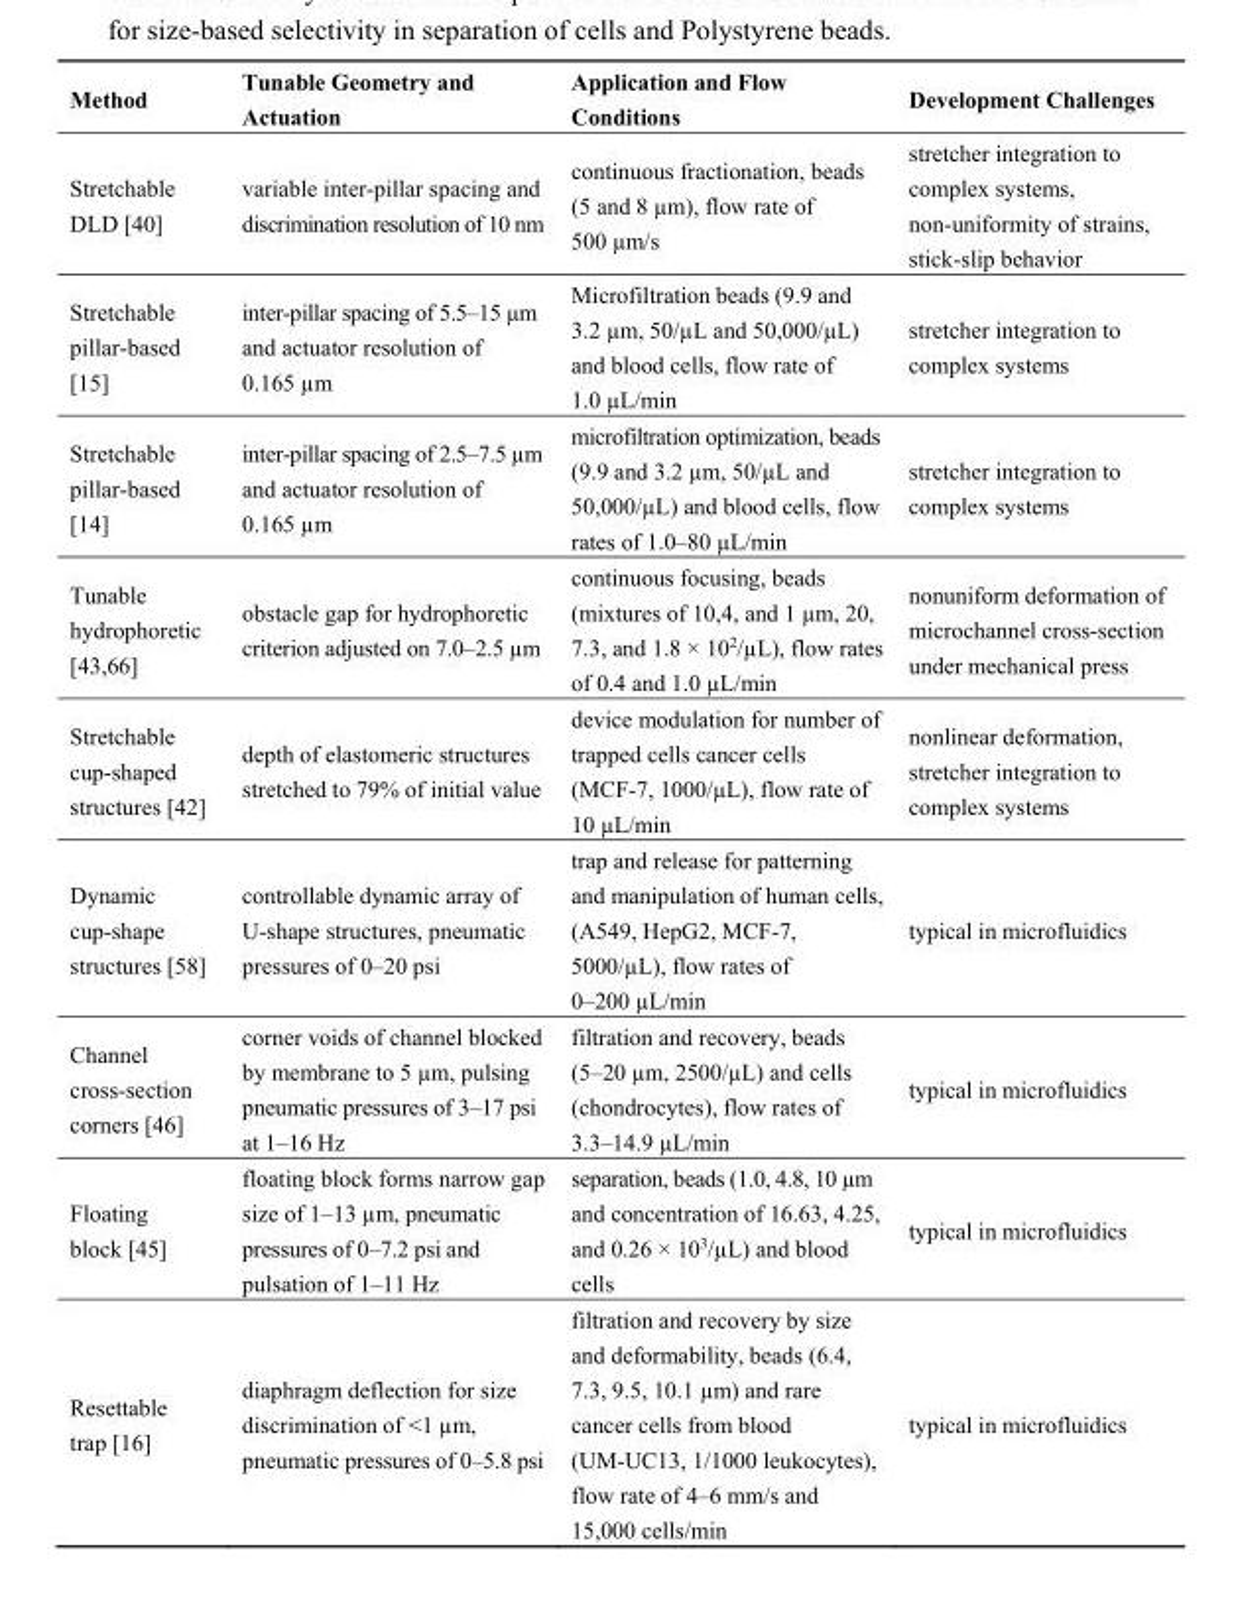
<table><thead><tr><td>Method</td><td>Tunable Geometry and Actuation</td><td>Application and Flow Conditions</td><td>Development Challenges</td></tr></thead><tbody><tr><td>Stretchable DLD [40]</td><td>variable inter-pillar spacing and discrimination resolution of 10 nm</td><td>continuous fractionation, beads (5 and 8 µm), flow rate of 500 µm/s</td><td>stretcher integration to complex systems, non-uniformity of strains, stick-slip behavior</td></tr><tr><td>Stretchable pillar-based [15]</td><td>inter-pillar spacing of 5.5–15 µm and actuator resolution of 0.165 µm</td><td>Microfiltration beads (9.9 and 3.2 µm, 50/µL and 50,000/µL) and blood cells, flow rate of 1.0 µL/min</td><td>stretcher integration to complex systems</td></tr><tr><td>Stretchable pillar-based [14]</td><td>inter-pillar spacing of 2.5–7.5 µm and actuator resolution of 0.165 µm</td><td>microfiltration optimization, beads (9.9 and 3.2 µm, 50/µL and 50,000/µL) and blood cells, flow rates of 1.0–80 µL/min</td><td>stretcher integration to complex systems</td></tr><tr><td>Tunable hydrophoretic [43,66]</td><td>obstacle gap for hydrophoretic criterion adjusted on 7.0–2.5 µm</td><td>continuous focusing, beads (mixtures of 10,4, and 1 µm, 20, 7.3, and 1.8 × 10<sup>2</sup>/µL), flow rates of 0.4 and 1.0 µL/min</td><td>nonuniform deformation of microchannel cross-section under mechanical press</td></tr><tr><td>Stretchable cup-shaped structures [42]</td><td>depth of elastomeric structures stretched to 79% of initial value</td><td>device modulation for number of trapped cells cancer cells (MCF-7, 1000/µL), flow rate of 10 µL/min</td><td>nonlinear deformation, stretcher integration to complex systems</td></tr><tr><td>Dynamic cup-shape structures [58]</td><td>controllable dynamic array of U-shape structures, pneumatic pressures of 0–20 psi</td><td>trap and release for patterning and manipulation of human cells, (A549, HepG2, MCF-7, 5000/µL), flow rates of 0–200 µL/min</td><td>typical in microfluidics</td></tr><tr><td>Channel cross-section corners [46]</td><td>corner voids of channel blocked by membrane to 5 µm, pulsing pneumatic pressures of 3–17 psi at 1–16 Hz</td><td>filtration and recovery, beads (5–20 µm, 2500/µL) and cells (chondrocytes), flow rates of 3.3–14.9 µL/min</td><td>typical in microfluidics</td></tr><tr><td>Floating block [45]</td><td>floating block forms narrow gap size of 1–13 µm, pneumatic pressures of 0–7.2 psi and pulsation of 1–11 Hz</td><td>separation, beads (1.0, 4.8, 10 µm and concentration of 16.63, 4.25, and 0.26 × 10<sup>3</sup>/µL) and blood cells</td><td>typical in microfluidics</td></tr><tr><td>Resettable trap [16]</td><td>diaphragm deflection for size discrimination of &lt;1 µm, pneumatic pressures of 0–5.8 psi</td><td>filtration and recovery by size and deformability, beads (6.4, 7.3, 9.5, 10.1 µm) and rare cancer cells from blood (UM-UC13, 1/1000 leukocytes), flow rate of 4–6 mm/s and 15,000 cells/min</td><td>typical in microfluidics</td></tr></tbody></table>